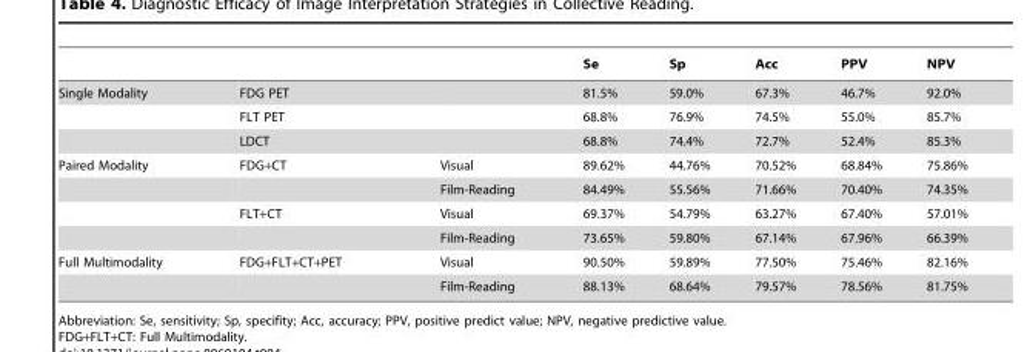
<table><thead><tr><td></td><td></td><td></td><td>Se</td><td>Sp</td><td>Acc</td><td>PPV</td><td>NPV</td></tr></thead><tbody><tr><td rowspan="3">Single Modality</td><td>FDG PET</td><td></td><td>81.5%</td><td>59.0%</td><td>67.3%</td><td>46.7%</td><td>92.0%</td></tr><tr><td>FLT PET</td><td></td><td>68.8%</td><td>76.9%</td><td>74.5%</td><td>55.0%</td><td>85.7%</td></tr><tr><td>LDCT</td><td></td><td>68.8%</td><td>74.4%</td><td>72.7%</td><td>52.4%</td><td>85.3%</td></tr><tr><td rowspan="4">Paired Modality</td><td>FDG+CT</td><td>Visual</td><td>89.62%</td><td>44.76%</td><td>70.52%</td><td>68.84%</td><td>75.86%</td></tr><tr><td></td><td>Film-Reading</td><td>84.49%</td><td>55.56%</td><td>71.66%</td><td>70.40%</td><td>74.35%</td></tr><tr><td>FLT+CT</td><td>Visual</td><td>69.37%</td><td>54.79%</td><td>63.27%</td><td>67.40%</td><td>57.01%</td></tr><tr><td></td><td>Film-Reading</td><td>73.65%</td><td>59.80%</td><td>67.14%</td><td>67.96%</td><td>66.39%</td></tr><tr><td rowspan="2">Full Multimodality</td><td>FDG+FLT+CT+PET</td><td>Visual</td><td>90.50%</td><td>59.89%</td><td>77.50%</td><td>75.46%</td><td>82.16%</td></tr><tr><td></td><td>Film-Reading</td><td>88.13%</td><td>68.64%</td><td>79.57%</td><td>78.56%</td><td>81.75%</td></tr></tbody></table>